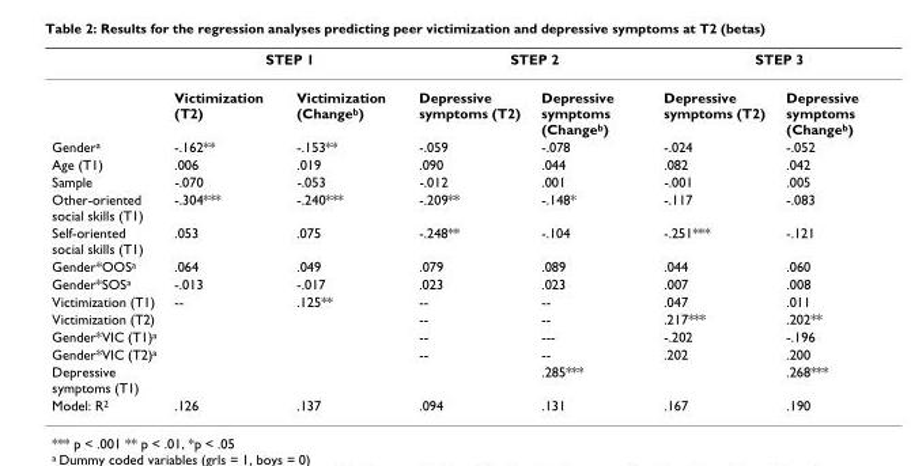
<table><thead><tr><td rowspan="2"></td><td colspan="2">STEP 1</td><td colspan="2">STEP 2</td><td colspan="2">STEP 3</td></tr><tr><td>Victimization (T2)</td><td>Victimization (Change<sup>b</sup>)</td><td>Depressive symptoms (T2)</td><td>Depressive symptoms (Change<sup>b</sup>)</td><td>Depressive symptoms (T2)</td><td>Depressive symptoms (Change<sup>b</sup>)</td></tr></thead><tbody><tr><td>Gender<sup>a</sup></td><td>-.162**</td><td>-.153**</td><td>-.059</td><td>-.078</td><td>-.024</td><td>-.052</td></tr><tr><td>Age (T1)</td><td>.006</td><td>.019</td><td>.090</td><td>.044</td><td>.082</td><td>.042</td></tr><tr><td>Sample</td><td>-.070</td><td>-.053</td><td>-.012</td><td>.001</td><td>-.001</td><td>.005</td></tr><tr><td>Other-oriented social skills (T1)</td><td>-.304***</td><td>-.240***</td><td>-.209**</td><td>-.148*</td><td>-.117</td><td>-.083</td></tr><tr><td>Self-oriented social skills (T1)</td><td>.053</td><td>.075</td><td>-.248**</td><td>-.104</td><td>-.251***</td><td>-.121</td></tr><tr><td>Gender*OOS<sup>a</sup></td><td>.064</td><td>.049</td><td>.079</td><td>.089</td><td>.044</td><td>.060</td></tr><tr><td>Gender*SOS<sup>a</sup></td><td>-.013</td><td>-.017</td><td>.023</td><td>.023</td><td>.007</td><td>.008</td></tr><tr><td>Victimization (T1)</td><td>--</td><td>.125**</td><td>--</td><td>--</td><td>.047</td><td>.011</td></tr><tr><td>Victimization (T2)</td><td></td><td></td><td>--</td><td>--</td><td>.217***</td><td>.202**</td></tr><tr><td>Gender*VIC (T1)<sup>a</sup></td><td></td><td></td><td>--</td><td>---</td><td>-.202</td><td>-.196</td></tr><tr><td>Gender*VIC (T2)<sup>a</sup></td><td></td><td></td><td>--</td><td>--</td><td>.202</td><td>.200</td></tr><tr><td>Depressive symptoms (T1)</td><td></td><td></td><td></td><td>.285***</td><td></td><td>.268***</td></tr><tr><td>Model: R<sup>2</sup></td><td>.126</td><td>.137</td><td>.094</td><td>.131</td><td>.167</td><td>.190</td></tr></tbody></table>